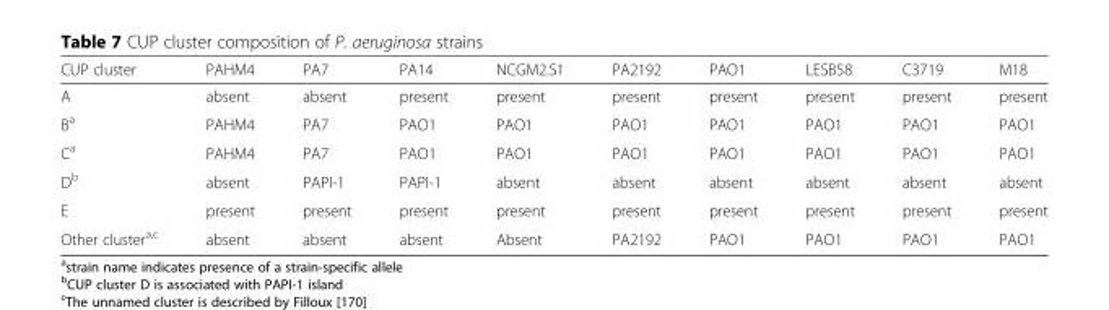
<table><thead><tr><td>CUP cluster</td><td>PAHM4</td><td>PA7</td><td>PA14</td><td>NCGM2.S1</td><td>PA2192</td><td>PAO1</td><td>LESB58</td><td>C3719</td><td>M18</td></tr></thead><tbody><tr><td>A</td><td>absent</td><td>absent</td><td>present</td><td>present</td><td>present</td><td>present</td><td>present</td><td>present</td><td>present</td></tr><tr><td>B<sup>a</sup></td><td>PAHM4</td><td>PA7</td><td>PAO1</td><td>PAO1</td><td>PAO1</td><td>PAO1</td><td>PAO1</td><td>PAO1</td><td>PAO1</td></tr><tr><td>C<sup>a</sup></td><td>PAHM4</td><td>PA7</td><td>PAO1</td><td>PAO1</td><td>PAO1</td><td>PAO1</td><td>PAO1</td><td>PAO1</td><td>PAO1</td></tr><tr><td>D<sup>b</sup></td><td>absent</td><td>PAPI-1</td><td>PAPI-1</td><td>absent</td><td>absent</td><td>absent</td><td>absent</td><td>absent</td><td>absent</td></tr><tr><td>E</td><td>present</td><td>present</td><td>present</td><td>present</td><td>present</td><td>present</td><td>present</td><td>present</td><td>present</td></tr><tr><td>Other cluster<sup>a,c</sup></td><td>absent</td><td>absent</td><td>absent</td><td>Absent</td><td>PA2192</td><td>PAO1</td><td>PAO1</td><td>PAO1</td><td>PAO1</td></tr></tbody></table>